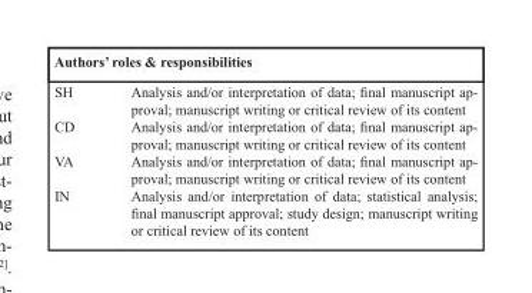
<table><thead><tr><td colspan="2">Authors’ roles &amp; responsibilities</td></tr><tr><td>SH</td><td>Analysis and/or interpretation of data; final manuscript ap- proval; manuscript writing or critical review of its content</td></tr></thead><tbody><tr><td>CD</td><td>Analysis and/or interpretation of data; final manuscript ap- proval; manuscript writing or critical review of its content</td></tr><tr><td>VA</td><td>Analysis and/or interpretation of data; final manuscript ap- proval; manuscript writing or critical review of its content</td></tr><tr><td>IN</td><td>Analysis and/or interpretation of data; statistical analysis; final manuscript approval; study design; manuscript writing or critical review of its content</td></tr></tbody></table>